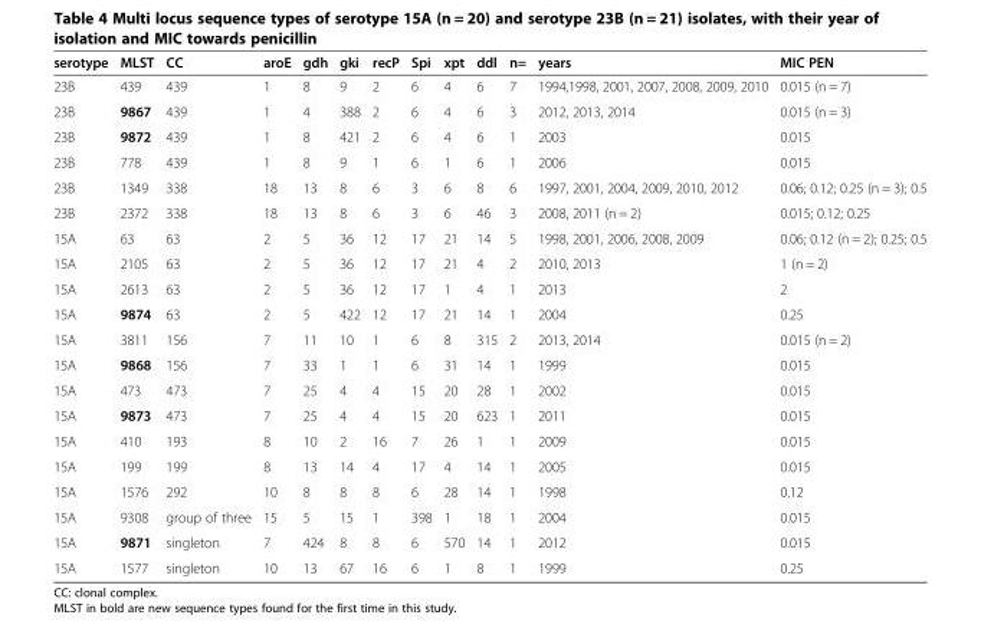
<table><thead><tr><td>serotype</td><td>MLST</td><td>CC</td><td>aroE</td><td>gdh</td><td>gki</td><td>recP</td><td>Spi</td><td>xpt</td><td>ddl</td><td>n=</td><td>years</td><td>MIC PEN</td></tr></thead><tbody><tr><td>23B</td><td>439</td><td>439</td><td>1</td><td>8</td><td>9</td><td>2</td><td>6</td><td>4</td><td>6</td><td>7</td><td>1994,1998, 2001, 2007, 2008, 2009, 2010</td><td>0.015 (n = 7)</td></tr><tr><td>23B</td><td>9867</td><td>439</td><td>1</td><td>4</td><td>388</td><td>2</td><td>6</td><td>4</td><td>6</td><td>3</td><td>2012, 2013, 2014</td><td>0.015 (n = 3)</td></tr><tr><td>23B</td><td>9872</td><td>439</td><td>1</td><td>8</td><td>421</td><td>2</td><td>6</td><td>4</td><td>6</td><td>1</td><td>2003</td><td>0.015</td></tr><tr><td>23B</td><td>778</td><td>439</td><td>1</td><td>8</td><td>9</td><td>1</td><td>6</td><td>1</td><td>6</td><td>1</td><td>2006</td><td>0.015</td></tr><tr><td>23B</td><td>1349</td><td>338</td><td>18</td><td>13</td><td>8</td><td>6</td><td>3</td><td>6</td><td>8</td><td>6</td><td>1997, 2001, 2004, 2009, 2010, 2012</td><td>0.06; 0.12; 0.25 (n = 3); 0.5</td></tr><tr><td>23B</td><td>2372</td><td>338</td><td>18</td><td>13</td><td>8</td><td>6</td><td>3</td><td>6</td><td>46</td><td>3</td><td>2008, 2011 (n = 2)</td><td>0.015; 0.12; 0.25</td></tr><tr><td>15A</td><td>63</td><td>63</td><td>2</td><td>5</td><td>36</td><td>12</td><td>17</td><td>21</td><td>14</td><td>5</td><td>1998, 2001, 2006, 2008, 2009</td><td>0.06; 0.12 (n = 2); 0.25; 0.5</td></tr><tr><td>15A</td><td>2105</td><td>63</td><td>2</td><td>5</td><td>36</td><td>12</td><td>17</td><td>21</td><td>4</td><td>2</td><td>2010, 2013</td><td>1 (n = 2)</td></tr><tr><td>15A</td><td>2613</td><td>63</td><td>2</td><td>5</td><td>36</td><td>12</td><td>17</td><td>1</td><td>4</td><td>1</td><td>2013</td><td>2</td></tr><tr><td>15A</td><td>9874</td><td>63</td><td>2</td><td>5</td><td>422</td><td>12</td><td>17</td><td>21</td><td>14</td><td>1</td><td>2004</td><td>0.25</td></tr><tr><td>15A</td><td>3811</td><td>156</td><td>7</td><td>11</td><td>10</td><td>1</td><td>6</td><td>8</td><td>315</td><td>2</td><td>2013, 2014</td><td>0.015 (n = 2)</td></tr><tr><td>15A</td><td>9868</td><td>156</td><td>7</td><td>33</td><td>1</td><td>1</td><td>6</td><td>31</td><td>14</td><td>1</td><td>1999</td><td>0.015</td></tr><tr><td>15A</td><td>473</td><td>473</td><td>7</td><td>25</td><td>4</td><td>4</td><td>15</td><td>20</td><td>28</td><td>1</td><td>2002</td><td>0.015</td></tr><tr><td>15A</td><td>9873</td><td>473</td><td>7</td><td>25</td><td>4</td><td>4</td><td>15</td><td>20</td><td>623</td><td>1</td><td>2011</td><td>0.015</td></tr><tr><td>15A</td><td>410</td><td>193</td><td>8</td><td>10</td><td>2</td><td>16</td><td>7</td><td>26</td><td>1</td><td>1</td><td>2009</td><td>0.015</td></tr><tr><td>15A</td><td>199</td><td>199</td><td>8</td><td>13</td><td>14</td><td>4</td><td>17</td><td>4</td><td>14</td><td>1</td><td>2005</td><td>0.015</td></tr><tr><td>15A</td><td>1576</td><td>292</td><td>10</td><td>8</td><td>8</td><td>8</td><td>6</td><td>28</td><td>14</td><td>1</td><td>1998</td><td>0.12</td></tr><tr><td>15A</td><td>9308</td><td>group of three</td><td>15</td><td>5</td><td>15</td><td>1</td><td>398</td><td>1</td><td>18</td><td>1</td><td>2004</td><td>0.015</td></tr><tr><td>15A</td><td>9871</td><td>singleton</td><td>7</td><td>424</td><td>8</td><td>8</td><td>6</td><td>570</td><td>14</td><td>1</td><td>2012</td><td>0.015</td></tr><tr><td>15A</td><td>1577</td><td>singleton</td><td>10</td><td>13</td><td>67</td><td>16</td><td>6</td><td>1</td><td>8</td><td>1</td><td>1999</td><td>0.25</td></tr></tbody></table>